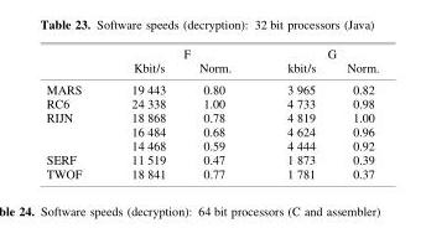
<table><thead><tr><td rowspan="2"></td><td colspan="2">F</td><td colspan="2">G</td></tr><tr><td>Kbit/s</td><td>Norm.</td><td>kbit/s</td><td>Norm.</td></tr></thead><tbody><tr><td>MARS</td><td>19 443</td><td>0.80</td><td>3 965</td><td>0.82</td></tr><tr><td>RC6</td><td>24 338</td><td>1.00</td><td>4 733</td><td>0.98</td></tr><tr><td rowspan="3">RIJN</td><td>18 868</td><td>0.78</td><td>4 819</td><td>1.00</td></tr><tr><td>16 484</td><td>0.68</td><td>4 624</td><td>0.96</td></tr><tr><td>14 468</td><td>0.59</td><td>4 444</td><td>0.92</td></tr><tr><td>SERF</td><td>11 519</td><td>0.47</td><td>1 873</td><td>0.39</td></tr><tr><td>TWOF</td><td>18 841</td><td>0.77</td><td>1 781</td><td>0.37</td></tr></tbody></table>